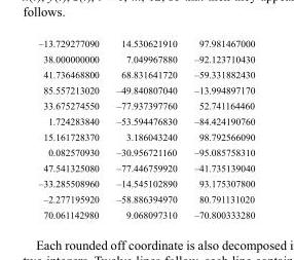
<table><tbody><tr><td>–13.729277090</td><td>14.530621910</td><td>97.981467000</td></tr><tr><td>38.000000000</td><td>7.049967880</td><td>–92.123710430</td></tr><tr><td>41.736468800</td><td>68.831641720</td><td>–59.331882430</td></tr><tr><td>85.557213020</td><td>–49.840807040</td><td>–13.994897170</td></tr><tr><td>33.675274550</td><td>–77.937397760</td><td>52.741164460</td></tr><tr><td>1.724283840</td><td>–53.594476830</td><td>–84.424190760</td></tr><tr><td>15.161728370</td><td>3.186043240</td><td>98.792566090</td></tr><tr><td>0.082570930</td><td>–30.956721160</td><td>–95.085758310</td></tr><tr><td>47.541325080</td><td>–77.446759920</td><td>–41.735139040</td></tr><tr><td>–33.285508960</td><td>–14.545102890</td><td>93.175307800</td></tr><tr><td>–2.277195920</td><td>–58.886394970</td><td>80.791131020</td></tr><tr><td>70.061142980</td><td>9.068097310</td><td>–70.800333280</td></tr></tbody></table>